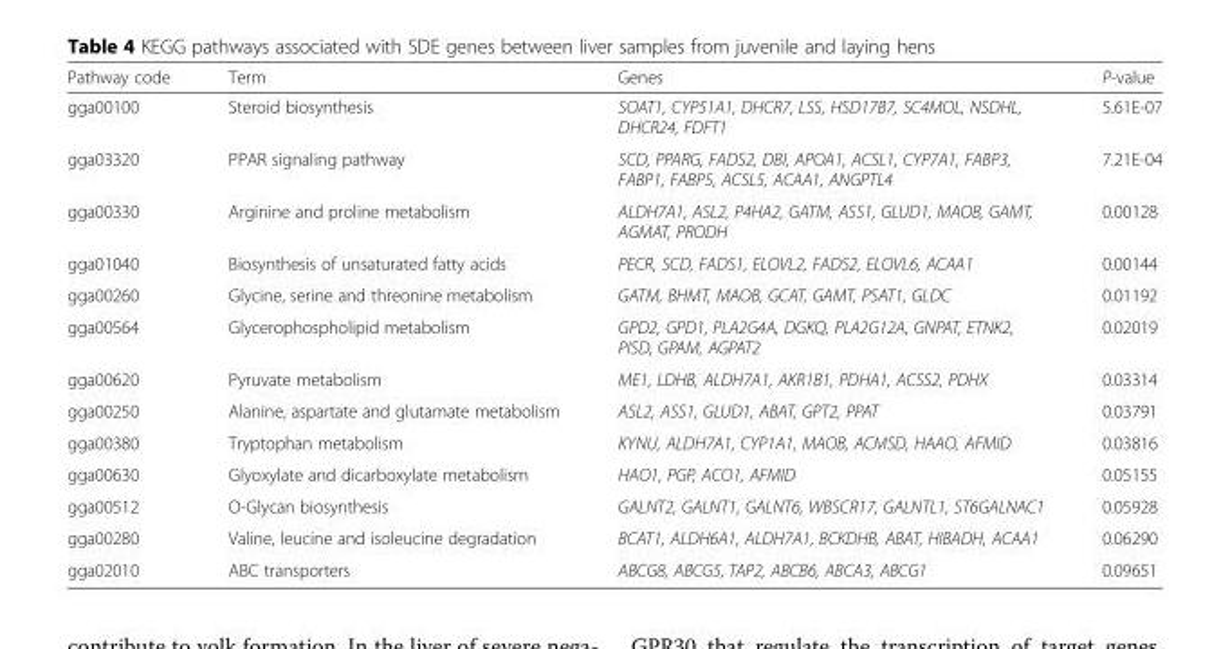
<table><thead><tr><td>Pathway code</td><td>Term</td><td>Genes</td><td>P-value</td></tr></thead><tbody><tr><td>gga00100</td><td>Steroid biosynthesis</td><td>SOAT1, CYP51A1, DHCR7, LSS, HSD17B7, SC4MOL, NSDHL, DHCR24, FDFT1</td><td>5.61E-07</td></tr><tr><td>gga03320</td><td>PPAR signaling pathway</td><td>SCD, PPARG, FADS2, DBI, APOA1, ACSL1, CYP7A1, FABP3, FABP1, FABP5, ACSL5, ACAA1, ANGPTL4</td><td>7.21E-04</td></tr><tr><td>gga00330</td><td>Arginine and proline metabolism</td><td>ALDH7A1, ASL2, P4HA2, GATM, ASS1, GLUD1, MAOB, GAMT, AGMAT, PRODH</td><td>0.00128</td></tr><tr><td>gga01040</td><td>Biosynthesis of unsaturated fatty acids</td><td>PECR, SCD, FADS1, ELOVL2, FADS2, ELOVL6, ACAA1</td><td>0.00144</td></tr><tr><td>gga00260</td><td>Glycine, serine and threonine metabolism</td><td>GATM, BHMT, MAOB, GCAT, GAMT, PSAT1, GLDC</td><td>0.01192</td></tr><tr><td>gga00564</td><td>Glycerophospholipid metabolism</td><td>GPD2, GPD1, PLA2G4A, DGKQ, PLA2G12A, GNPAT, ETNK2, PISD, GPAM, AGPAT2</td><td>0.02019</td></tr><tr><td>gga00620</td><td>Pyruvate metabolism</td><td>ME1, LDHB, ALDH7A1, AKR1B1, PDHA1, ACSS2, PDHX</td><td>0.03314</td></tr><tr><td>gga00250</td><td>Alanine, aspartate and glutamate metabolism</td><td>ASL2, ASS1, GLUD1, ABAT, GPT2, PPAT</td><td>0.03791</td></tr><tr><td>gga00380</td><td>Tryptophan metabolism</td><td>KYNU, ALDH7A1, CYP1A1, MAOB, ACMSD, HAAO, AFMID</td><td>0.03816</td></tr><tr><td>gga00630</td><td>Glyoxylate and dicarboxylate metabolism</td><td>HAO1, PGP, ACO1, AFMID</td><td>0.05155</td></tr><tr><td>gga00512</td><td>O-Glycan biosynthesis</td><td>GALNT2, GALNT1, GALNT6, WBSCR17, GALNTL1, ST6GALNAC1</td><td>0.05928</td></tr><tr><td>gga00280</td><td>Valine, leucine and isoleucine degradation</td><td>BCAT1, ALDH6A1, ALDH7A1, BCKDHB, ABAT, HIBADH, ACAA1</td><td>0.06290</td></tr><tr><td>gga02010</td><td>ABC transporters</td><td>ABCG8, ABCG5, TAP2, ABCB6, ABCA3, ABCG1</td><td>0.09651</td></tr></tbody></table>